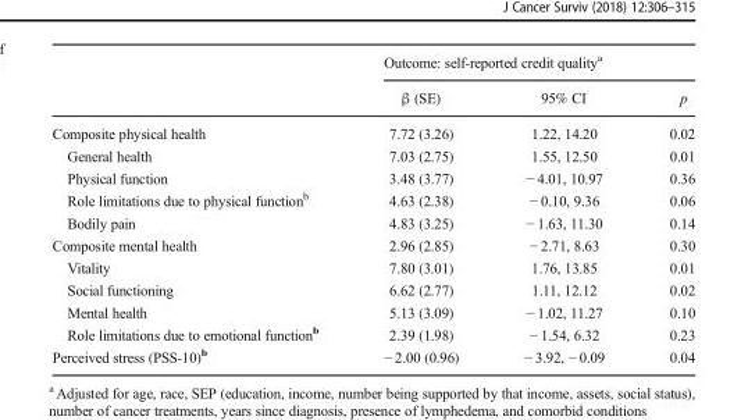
<table><thead><tr><td rowspan="2"></td><td colspan="3">Outcome: self-reported credit quality<sup>a</sup></td></tr><tr><td>β (SE)</td><td>95% CI</td><td>p</td></tr></thead><tbody><tr><td>Composite physical health</td><td>7.72 (3.26)</td><td>1.22, 14.20</td><td>0.02</td></tr><tr><td>General health</td><td>7.03 (2.75)</td><td>1.55, 12.50</td><td>0.01</td></tr><tr><td>Physical function</td><td>3.48 (3.77)</td><td>− 4.01, 10.97</td><td>0.36</td></tr><tr><td>Role limitations due to physical function<sup>b</sup></td><td>4.63 (2.38)</td><td>− 0.10, 9.36</td><td>0.06</td></tr><tr><td>Bodily pain</td><td>4.83 (3.25)</td><td>− 1.63, 11.30</td><td>0.14</td></tr><tr><td>Composite mental health</td><td>2.96 (2.85)</td><td>− 2.71, 8.63</td><td>0.30</td></tr><tr><td>Vitality</td><td>7.80 (3.01)</td><td>1.76, 13.85</td><td>0.01</td></tr><tr><td>Social functioning</td><td>6.62 (2.77)</td><td>1.11, 12.12</td><td>0.02</td></tr><tr><td>Mental health</td><td>5.13 (3.09)</td><td>− 1.02, 11.27</td><td>0.10</td></tr><tr><td>Role limitations due to emotional function<sup>b</sup></td><td>2.39 (1.98)</td><td>− 1.54, 6.32</td><td>0.23</td></tr><tr><td>Perceived stress (PSS-10)<sup>b</sup></td><td>− 2.00 (0.96)</td><td>− 3.92, − 0.09</td><td>0.04</td></tr></tbody></table>